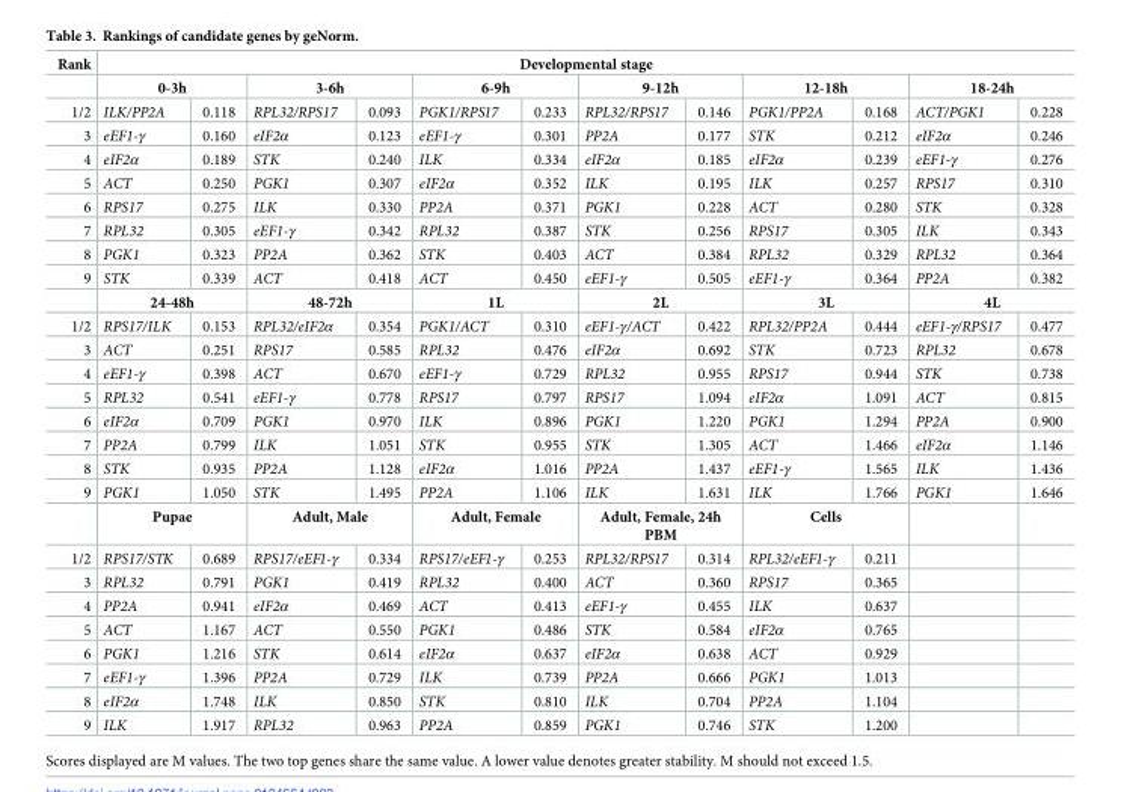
<table><thead><tr><td rowspan="3">Rank 1/2</td><td colspan="12">Developmental stage</td></tr><tr><td colspan="2">0-3h</td><td colspan="2">3-6h</td><td colspan="2">6-9h</td><td colspan="2">9-12h</td><td colspan="2">12-18h</td><td colspan="2">18-24h</td></tr><tr><td>ILK/PP2A</td><td>0.118</td><td>RPL32/RPS17</td><td>0.093</td><td>PGK1/RPS17</td><td>0.233</td><td>RPL32/RPS17</td><td>0.146</td><td>PGK1/PP2A</td><td>0.168</td><td>ACT/PGK1</td><td>0.228</td></tr></thead><tbody><tr><td>3</td><td>eEF1-γ</td><td>0.160</td><td>eIF2α</td><td>0.123</td><td>eEF1-γ</td><td>0.301</td><td>PP2A</td><td>0.177</td><td>STK</td><td>0.212</td><td>eIF2α</td><td>0.246</td></tr><tr><td>4</td><td>eIF2α</td><td>0.189</td><td>STK</td><td>0.240</td><td>ILK</td><td>0.334</td><td>eIF2α</td><td>0.185</td><td>eIF2α</td><td>0.239</td><td>eEF1-γ</td><td>0.276</td></tr><tr><td>5</td><td>ACT</td><td>0.250</td><td>PGK1</td><td>0.307</td><td>eIF2α</td><td>0.352</td><td>ILK</td><td>0.195</td><td>ILK</td><td>0.257</td><td>RPS17</td><td>0.310</td></tr><tr><td>6</td><td>RPS17</td><td>0.275</td><td>ILK</td><td>0.330</td><td>PP2A</td><td>0.371</td><td>PGK1</td><td>0.228</td><td>ACT</td><td>0.280</td><td>STK</td><td>0.328</td></tr><tr><td>7</td><td>RPL32</td><td>0.305</td><td>eEF1-γ</td><td>0.342</td><td>RPL32</td><td>0.387</td><td>STK</td><td>0.256</td><td>RPS17</td><td>0.305</td><td>ILK</td><td>0.343</td></tr><tr><td>8</td><td>PGK1</td><td>0.323</td><td>PP2A</td><td>0.362</td><td>STK</td><td>0.403</td><td>ACT</td><td>0.384</td><td>RPL32</td><td>0.329</td><td>RPL32</td><td>0.364</td></tr><tr><td rowspan="2">9</td><td>STK</td><td>0.339</td><td>ACT</td><td>0.418</td><td>ACT</td><td>0.450</td><td>eEF1-γ</td><td>0.505</td><td>eEF1-γ</td><td>0.364</td><td>PP2A</td><td>0.382</td></tr><tr><td colspan="2">24-48h</td><td colspan="2">48-72h</td><td colspan="2">1L</td><td colspan="2">2L</td><td colspan="2">3L</td><td colspan="2">4L</td></tr><tr><td>1/2</td><td>RPS17/ILK</td><td>0.153</td><td>RPL32/eIF2α</td><td>0.354</td><td>PGK1/ACT</td><td>0.310</td><td>eEF1-γ/ACT</td><td>0.422</td><td>RPL32/PP2A</td><td>0.444</td><td>eEF1-γ/RPS17</td><td>0.477</td></tr><tr><td>3</td><td>ACT</td><td>0.251</td><td>RPS17</td><td>0.585</td><td>RPL32</td><td>0.476</td><td>eIF2α</td><td>0.692</td><td>STK</td><td>0.723</td><td>RPL32</td><td>0.678</td></tr><tr><td>4</td><td>eEF1-γ</td><td>0.398</td><td>ACT</td><td>0.670</td><td>eEF1-γ</td><td>0.729</td><td>RPL32</td><td>0.955</td><td>RPS17</td><td>0.944</td><td>STK</td><td>0.738</td></tr><tr><td>5</td><td>RPL32</td><td>0.541</td><td>eEF1-γ</td><td>0.778</td><td>RPS17</td><td>0.797</td><td>RPS17</td><td>1.094</td><td>eIF2α</td><td>1.091</td><td>ACT</td><td>0.815</td></tr><tr><td>6</td><td>eIF2α</td><td>0.709</td><td>PGK1</td><td>0.970</td><td>ILK</td><td>0.896</td><td>PGK1</td><td>1.220</td><td>PGK1</td><td>1.294</td><td>PP2A</td><td>0.900</td></tr><tr><td>7</td><td>PP2A</td><td>0.799</td><td>ILK</td><td>1.051</td><td>STK</td><td>0.955</td><td>STK</td><td>1.305</td><td>ACT</td><td>1.466</td><td>eIF2α</td><td>1.146</td></tr><tr><td>8</td><td>STK</td><td>0.935</td><td>PP2A</td><td>1.128</td><td>eIF2α</td><td>1.016</td><td>PP2A</td><td>1.437</td><td>eEF1-γ</td><td>1.565</td><td>ILK</td><td>1.436</td></tr><tr><td rowspan="2">9</td><td>PGK1</td><td>1.050</td><td>STK</td><td>1.495</td><td>PP2A</td><td>1.106</td><td>ILK</td><td>1.631</td><td>ILK</td><td>1.766</td><td>PGK1</td><td>1.646</td></tr><tr><td colspan="2">Pupae</td><td colspan="2">Adult, Male</td><td colspan="2">Adult, Female</td><td colspan="2">Adult, Female, 24h PBM</td><td colspan="2">Cells</td><td></td><td></td></tr><tr><td>1/2</td><td>RPS17/STK</td><td>0.689</td><td>RPS17/eEF1-γ</td><td>0.334</td><td>RPS17/eEF1-γ</td><td>0.253</td><td>RPL32/RPS17</td><td>0.314</td><td>RPL32/eEF1-γ</td><td>0.211</td><td></td><td></td></tr><tr><td>3</td><td>RPL32</td><td>0.791</td><td>PGK1</td><td>0.419</td><td>RPL32</td><td>0.400</td><td>ACT</td><td>0.360</td><td>RPS17</td><td>0.365</td><td></td><td></td></tr><tr><td>4</td><td>PP2A</td><td>0.941</td><td>eIF2α</td><td>0.469</td><td>ACT</td><td>0.413</td><td>eEF1-γ</td><td>0.455</td><td>ILK</td><td>0.637</td><td></td><td></td></tr><tr><td>5</td><td>ACT</td><td>1.167</td><td>ACT</td><td>0.550</td><td>PGK1</td><td>0.486</td><td>STK</td><td>0.584</td><td>eIF2α</td><td>0.765</td><td></td><td></td></tr><tr><td>6</td><td>PGK1</td><td>1.216</td><td>STK</td><td>0.614</td><td>eIF2α</td><td>0.637</td><td>eIF2α</td><td>0.638</td><td>ACT</td><td>0.929</td><td></td><td></td></tr><tr><td>7</td><td>eEF1-γ</td><td>1.396</td><td>PP2A</td><td>0.729</td><td>ILK</td><td>0.739</td><td>PP2A</td><td>0.666</td><td>PGK1</td><td>1.013</td><td></td><td></td></tr><tr><td>8</td><td>eIF2α</td><td>1.748</td><td>ILK</td><td>0.850</td><td>STK</td><td>0.810</td><td>ILK</td><td>0.704</td><td>PP2A</td><td>1.104</td><td></td><td></td></tr><tr><td>9</td><td>ILK</td><td>1.917</td><td>RPL32</td><td>0.963</td><td>PP2A</td><td>0.859</td><td>PGK1</td><td>0.746</td><td>STK</td><td>1.200</td><td></td><td></td></tr></tbody></table>